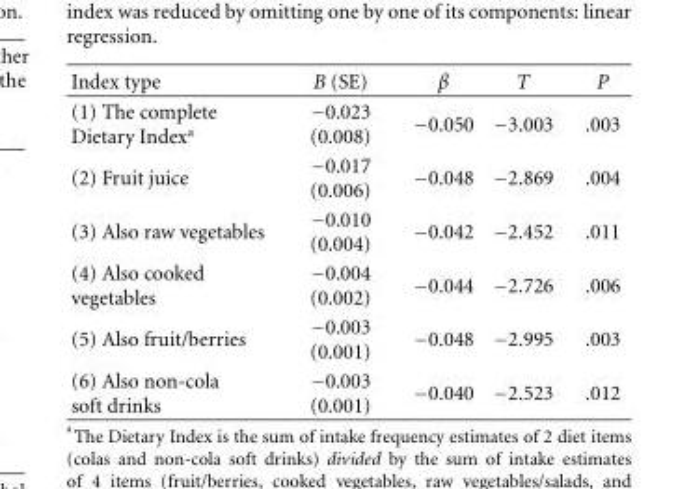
<table><thead><tr><td>Index type</td><td>B (SE)</td><td>β</td><td>T</td><td>P</td></tr></thead><tbody><tr><td>(1) The complete Dietary Index<sup>a</sup></td><td>−0.023 (0.008)</td><td>−0.050</td><td>−3.003</td><td>.003</td></tr><tr><td>(2) Fruit juice</td><td>−0.017 (0.006)</td><td>−0.048</td><td>−2.869</td><td>.004</td></tr><tr><td>(3) Also raw vegetables</td><td>−0.010 (0.004)</td><td>−0.042</td><td>−2.452</td><td>.011</td></tr><tr><td>(4) Also cooked vegetables</td><td>−0.004 (0.002)</td><td>−0.044</td><td>−2.726</td><td>.006</td></tr><tr><td>(5) Also fruit/berries</td><td>−0.003 (0.001)</td><td>−0.048</td><td>−2.995</td><td>.003</td></tr><tr><td>(6) Also non-cola soft drinks</td><td>−0.003 (0.001)</td><td>−0.040</td><td>−2.523</td><td>.012</td></tr></tbody></table>